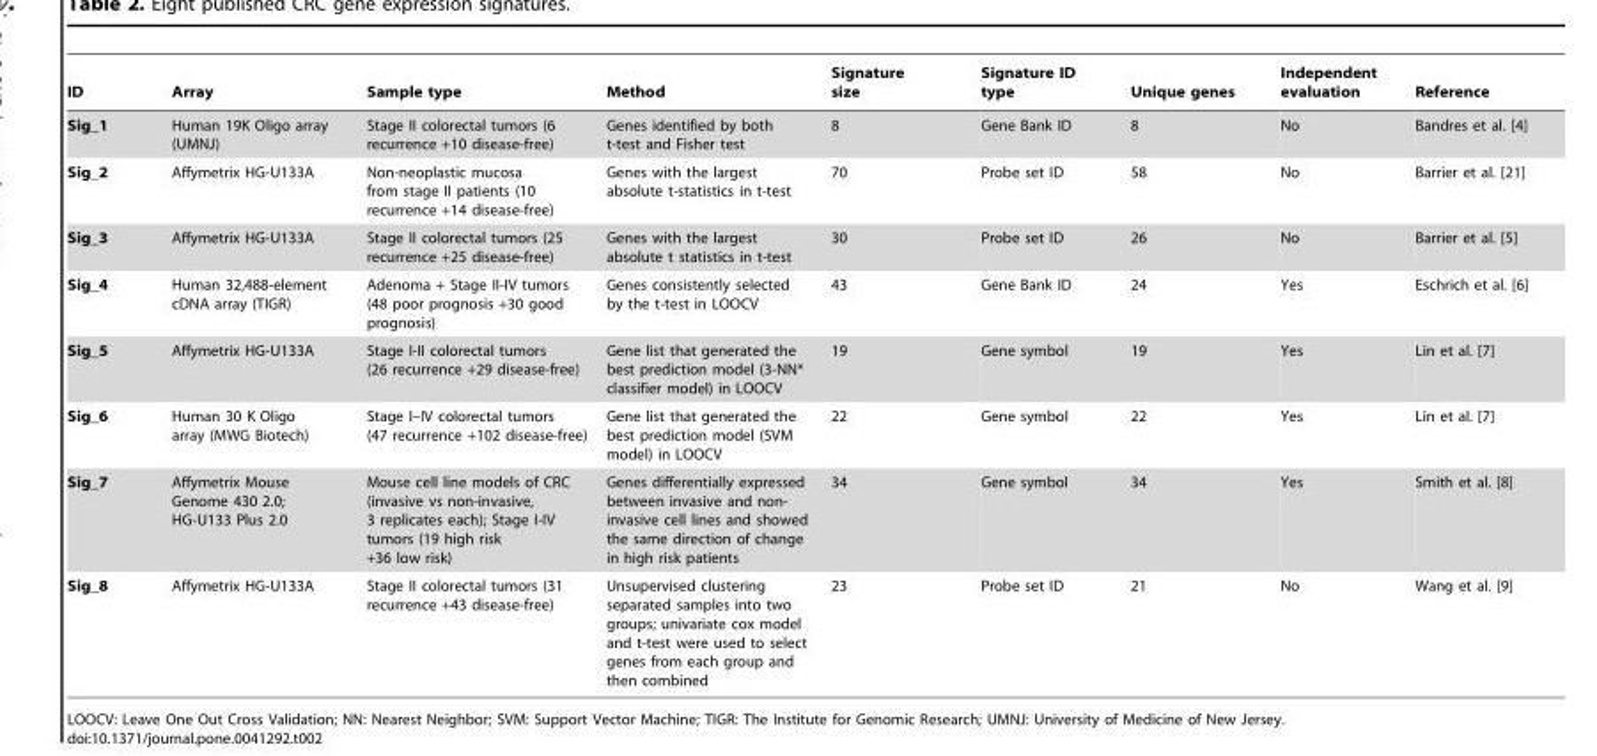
<table><thead><tr><td>ID</td><td>Array</td><td>Sample type</td><td>Method</td><td>Signature size</td><td>Signature ID type</td><td>Unique genes</td><td>Independent evaluation</td><td>Reference</td></tr></thead><tbody><tr><td>Sig_1</td><td>Human 19K Oligo array (UMNJ)</td><td>Stage II colorectal tumors (6 recurrence +10 disease-free)</td><td>Genes identified by both t-test and Fisher test</td><td>8</td><td>Gene Bank ID</td><td>8</td><td>No</td><td>Bandres et al. [4]</td></tr><tr><td>Sig_2</td><td>Affymetrix HG-U133A</td><td>Non-neoplastic mucosa from stage II patients (10 recurrence +14 disease-free)</td><td>Genes with the largest absolute t-statistics in t-test</td><td>70</td><td>Probe set ID</td><td>58</td><td>No</td><td>Barrier et al. [21]</td></tr><tr><td>Sig_3</td><td>Affymetrix HG-U133A</td><td>Stage II colorectal tumors (25 recurrence +25 disease-free)</td><td>Genes with the largest absolute t statistics in t-test</td><td>30</td><td>Probe set ID</td><td>26</td><td>No</td><td>Barrier et al. [5]</td></tr><tr><td>Sig_4</td><td>Human 32,488-element cDNA array (TIGR)</td><td>Adenoma + Stage II-IV tumors (48 poor prognosis +30 good prognosis)</td><td>Genes consistently selected by the t-test in LOOCV</td><td>43</td><td>Gene Bank ID</td><td>24</td><td>Yes</td><td>Eschrich et al. [6]</td></tr><tr><td>Sig_5</td><td>Affymetrix HG-U133A</td><td>Stage I-II colorectal tumors (26 recurrence +29 disease-free)</td><td>Gene list that generated the best prediction model (3-NN* classifier model) in LOOCV</td><td>19</td><td>Gene symbol</td><td>19</td><td>Yes</td><td>Lin et al. [7]</td></tr><tr><td>Sig_6</td><td>Human 30 K Oligo array (MWG Biotech)</td><td>Stage I–IV colorectal tumors (47 recurrence +102 disease-free)</td><td>Gene list that generated the best prediction model (SVM model) in LOOCV</td><td>22</td><td>Gene symbol</td><td>22</td><td>Yes</td><td>Lin et al. [7]</td></tr><tr><td>Sig_7</td><td>Affymetrix Mouse Genome 430 2.0; HG-U133 Plus 2.0</td><td>Mouse cell line models of CRC (invasive vs non-invasive, 3 replicates each); Stage I-IV tumors (19 high risk +36 low risk)</td><td>Genes differentially expressed between invasive and non- invasive cell lines and showed the same direction of change in high risk patients</td><td>34</td><td>Gene symbol</td><td>34</td><td>Yes</td><td>Smith et al. [8]</td></tr><tr><td>Sig_8</td><td>Affymetrix HG-U133A</td><td>Stage II colorectal tumors (31 recurrence +43 disease-free)</td><td>Unsupervised clustering separated samples into two groups; univariate cox model and t-test were used to select genes from each group and then combined</td><td>23</td><td>Probe set ID</td><td>21</td><td>No</td><td>Wang et al. [9]</td></tr></tbody></table>